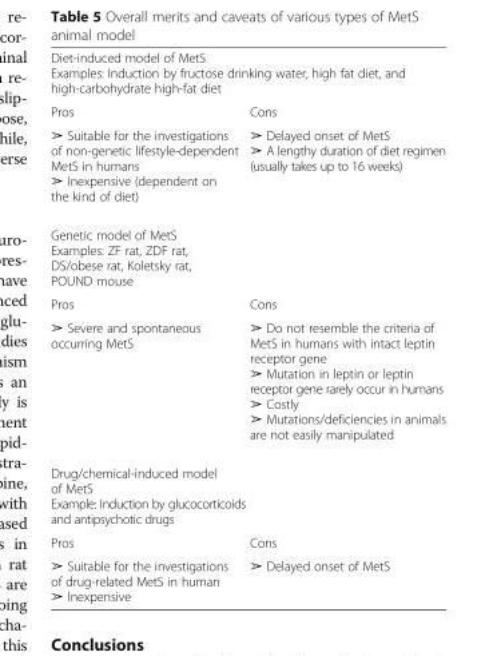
<table><tbody><tr><td colspan="2">Diet-induced model of MetS Examples: Induction by fructose drinking water, high fat diet, and high-carbohydrate high-fat diet</td></tr><tr><td>Pros</td><td>Cons</td></tr><tr><td>➢ Suitable for the investigations of non-genetic lifestyle-dependent MetS in humans ➢ Inexpensive (dependent on the kind of diet)</td><td>➢ Delayed onset of MetS ➢ A lengthy duration of diet regimen (usually takes up to 16 weeks)</td></tr><tr><td colspan="2">Genetic model of MetS Examples: ZF rat, ZDF rat, DS/obese rat, Koletsky rat, POUND mouse</td></tr><tr><td>Pros</td><td>Cons</td></tr><tr><td>➢ Severe and spontaneous occurring MetS</td><td>➢ Do not resemble the criteria of MetS in humans with intact leptin receptor gene ➢ Mutation in leptin or leptin receptor gene rarely occur in humans ➢ Costly ➢ Mutations/deficiencies in animals are not easily manipulated</td></tr><tr><td colspan="2">Drug/chemical-induced model of MetS Example: Induction by glucocorticoids and antipsychotic drugs</td></tr><tr><td>Pros</td><td>Cons</td></tr><tr><td>➢ Suitable for the investigations of drug-related MetS in human ➢ Inexpensive</td><td>➢ Delayed onset of MetS</td></tr></tbody></table>